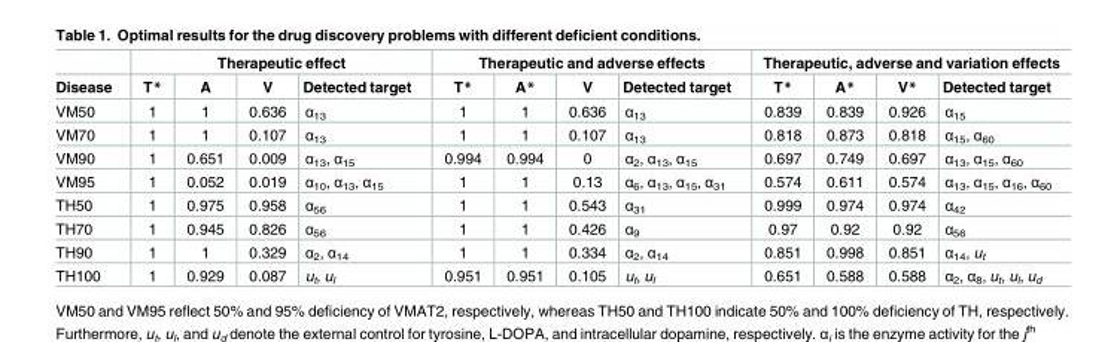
<table><thead><tr><td rowspan="2">Disease</td><td colspan="4">Therapeutic effect</td><td colspan="4">Therapeutic and adverse effects</td><td colspan="4">Therapeutic, adverse and variation effects</td></tr><tr><td>T*</td><td>A</td><td>V</td><td>Detected target</td><td>T*</td><td>A*</td><td>V</td><td>Detected target</td><td>T*</td><td>A*</td><td>V*</td><td>Detected target</td></tr></thead><tbody><tr><td>VM50</td><td>1</td><td>1</td><td>0.636</td><td>α<sub>13</sub></td><td>1</td><td>1</td><td>0.636</td><td>α<sub>13</sub></td><td>0.839</td><td>0.839</td><td>0.926</td><td>α<sub>15</sub></td></tr><tr><td>VM70</td><td>1</td><td>1</td><td>0.107</td><td>α<sub>13</sub></td><td>1</td><td>1</td><td>0.107</td><td>α<sub>13</sub></td><td>0.818</td><td>0.873</td><td>0.818</td><td>α<sub>15</sub>, α<sub>60</sub></td></tr><tr><td>VM90</td><td>1</td><td>0.651</td><td>0.009</td><td>α<sub>13</sub>, α<sub>15</sub></td><td>0.994</td><td>0.994</td><td>0</td><td>α<sub>2</sub>, α<sub>13</sub>, α<sub>15</sub></td><td>0.697</td><td>0.749</td><td>0.697</td><td>α<sub>13</sub>, α<sub>15</sub>, α<sub>60</sub></td></tr><tr><td>VM95</td><td>1</td><td>0.052</td><td>0.019</td><td>α<sub>10</sub>, α<sub>13</sub>, α<sub>15</sub></td><td>1</td><td>1</td><td>0.13</td><td>α<sub>6</sub>, α<sub>13</sub>, α<sub>15</sub>, α<sub>31</sub></td><td>0.574</td><td>0.611</td><td>0.574</td><td>α<sub>13</sub>, α<sub>15</sub>, α<sub>16</sub>, α<sub>60</sub></td></tr><tr><td>TH50</td><td>1</td><td>0.975</td><td>0.958</td><td>α<sub>56</sub></td><td>1</td><td>1</td><td>0.543</td><td>α<sub>31</sub></td><td>0.999</td><td>0.974</td><td>0.974</td><td>α<sub>42</sub></td></tr><tr><td>TH70</td><td>1</td><td>0.945</td><td>0.826</td><td>α<sub>56</sub></td><td>1</td><td>1</td><td>0.426</td><td>α<sub>9</sub></td><td>0.97</td><td>0.92</td><td>0.92</td><td>α<sub>56</sub></td></tr><tr><td>TH90</td><td>1</td><td>1</td><td>0.329</td><td>α<sub>2</sub>, α<sub>14</sub></td><td>1</td><td>1</td><td>0.334</td><td>α<sub>2</sub>, α<sub>14</sub></td><td>0.851</td><td>0.998</td><td>0.851</td><td>α<sub>14</sub>, u<sub>t</sub></td></tr><tr><td>TH100</td><td>1</td><td>0.929</td><td>0.087</td><td>u<sub>t</sub>, u<sub>l</sub></td><td>0.951</td><td>0.951</td><td>0.105</td><td>u<sub>t</sub>, u<sub>l</sub></td><td>0.651</td><td>0.588</td><td>0.588</td><td>α<sub>2</sub>, α<sub>8</sub>, u<sub>t</sub>, u<sub>l</sub>, u<sub>d</sub></td></tr></tbody></table>